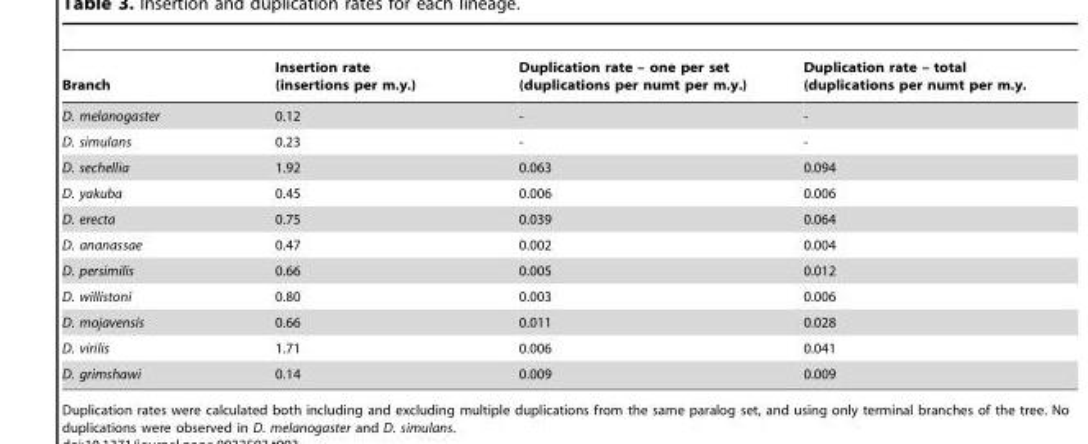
<table><thead><tr><td>Branch</td><td>Insertion rate (insertions per m.y.)</td><td>Duplication rate – one per set (duplications per numt per m.y.)</td><td>Duplication rate – total (duplications per numt per m.y.</td></tr></thead><tbody><tr><td>D. melanogaster</td><td>0.12</td><td>-</td><td>-</td></tr><tr><td>D. simulans</td><td>0.23</td><td>-</td><td>-</td></tr><tr><td>D. sechellia</td><td>1.92</td><td>0.063</td><td>0.094</td></tr><tr><td>D. yakuba</td><td>0.45</td><td>0.006</td><td>0.006</td></tr><tr><td>D. erecta</td><td>0.75</td><td>0.039</td><td>0.064</td></tr><tr><td>D. ananassae</td><td>0.47</td><td>0.002</td><td>0.004</td></tr><tr><td>D. persimilis</td><td>0.66</td><td>0.005</td><td>0.012</td></tr><tr><td>D. willistoni</td><td>0.80</td><td>0.003</td><td>0.006</td></tr><tr><td>D. mojavensis</td><td>0.66</td><td>0.011</td><td>0.028</td></tr><tr><td>D. virilis</td><td>1.71</td><td>0.006</td><td>0.041</td></tr><tr><td>D. grimshawi</td><td>0.14</td><td>0.009</td><td>0.009</td></tr></tbody></table>